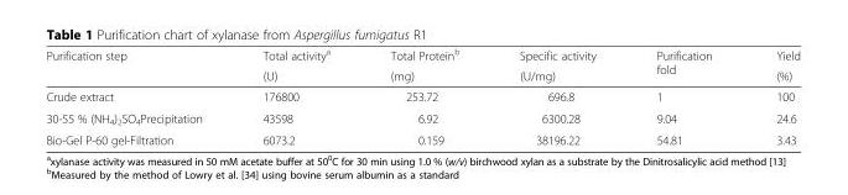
<table><thead><tr><td rowspan="2">Purification step</td><td rowspan="2">Total activity<sup>a</sup> (U)</td><td rowspan="2">Total Protein<sup>b</sup> (mg)</td><td rowspan="2">Specific activity (U/mg)</td><td rowspan="2">Purification fold</td><td rowspan="2">Yield (%)</td></tr><tr></tr></thead><tbody><tr><td>Crude extract</td><td>176800</td><td>253.72</td><td>696.8</td><td>1</td><td>100</td></tr><tr><td>30-55 % (NH<sub>4</sub>)<sub>2</sub>SO<sub>4</sub>Precipitation</td><td>43598</td><td>6.92</td><td>6300.28</td><td>9.04</td><td>24.6</td></tr><tr><td>Bio-Gel P-60 gel-Filtration</td><td>6073.2</td><td>0.159</td><td>38196.22</td><td>54.81</td><td>3.43</td></tr></tbody></table>